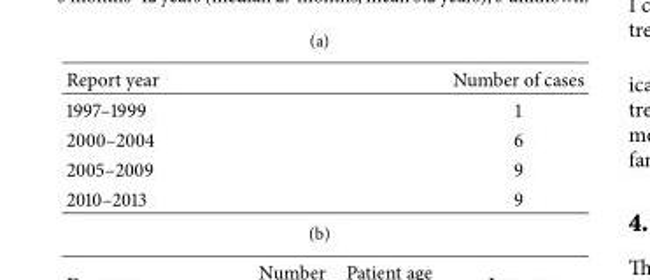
<table><thead><tr><td>Report year</td><td>Number of cases</td></tr></thead><tbody><tr><td>1997–1999</td><td>1</td></tr><tr><td>2000–2004</td><td>6</td></tr><tr><td>2005–2009</td><td>9</td></tr><tr><td>2010–2013</td><td>9</td></tr></tbody></table>